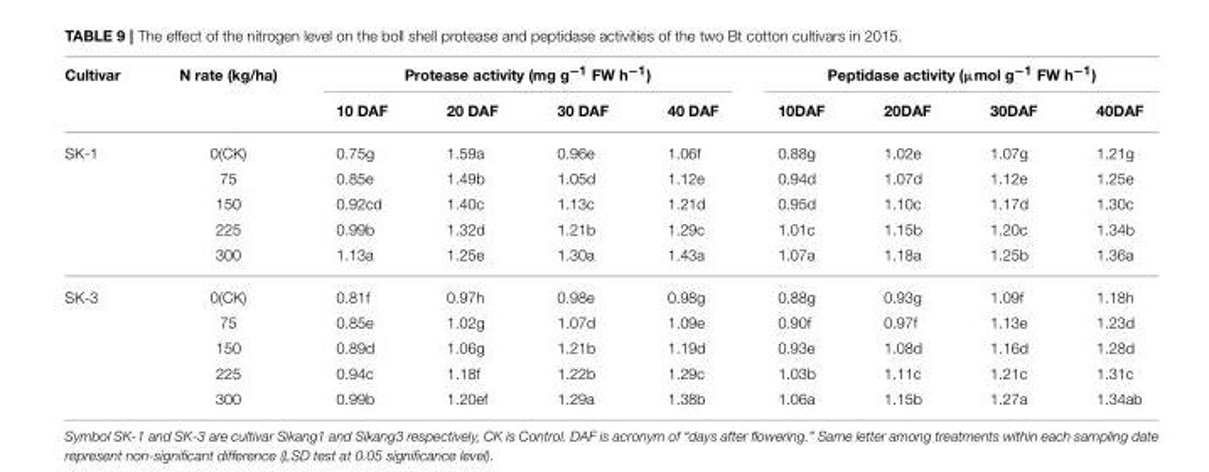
<table><thead><tr><td rowspan="2">Cultivar</td><td rowspan="2">N rate (kg/ha)</td><td colspan="4">Protease activity (mg g<sup>−1</sup> FW h<sup>−1</sup>)</td><td colspan="4">Peptidase activity (µmol g<sup>−1</sup> FW h<sup>−1</sup>)</td></tr><tr><td>10 DAF</td><td>20 DAF</td><td>30 DAF</td><td>40 DAF</td><td>10DAF</td><td>20DAF</td><td>30DAF</td><td>40DAF</td></tr></thead><tbody><tr><td rowspan="5">SK-1</td><td>0(CK)</td><td>0.75g</td><td>1.59a</td><td>0.96e</td><td>1.06f</td><td>0.88g</td><td>1.02e</td><td>1.07g</td><td>1.21g</td></tr><tr><td>75</td><td>0.85e</td><td>1.49b</td><td>1.05d</td><td>1.12e</td><td>0.94d</td><td>1.07d</td><td>1.12e</td><td>1.25e</td></tr><tr><td>150</td><td>0.92cd</td><td>1.40c</td><td>1.13c</td><td>1.21d</td><td>0.95d</td><td>1.10c</td><td>1.17d</td><td>1.30c</td></tr><tr><td>225</td><td>0.99b</td><td>1.32d</td><td>1.21b</td><td>1.29c</td><td>1.01c</td><td>1.15b</td><td>1.20c</td><td>1.34b</td></tr><tr><td>300</td><td>1.13a</td><td>1.25e</td><td>1.30a</td><td>1.43a</td><td>1.07a</td><td>1.18a</td><td>1.25b</td><td>1.36a</td></tr><tr><td rowspan="5">SK-3</td><td>0(CK)</td><td>0.81f</td><td>0.97h</td><td>0.98e</td><td>0.98g</td><td>0.88g</td><td>0.93g</td><td>1.09f</td><td>1.18h</td></tr><tr><td>75</td><td>0.85e</td><td>1.02g</td><td>1.07d</td><td>1.09e</td><td>0.90f</td><td>0.97f</td><td>1.13e</td><td>1.23d</td></tr><tr><td>150</td><td>0.89d</td><td>1.06g</td><td>1.21b</td><td>1.19d</td><td>0.93e</td><td>1.08d</td><td>1.16d</td><td>1.28d</td></tr><tr><td>225</td><td>0.94c</td><td>1.18f</td><td>1.22b</td><td>1.29c</td><td>1.03b</td><td>1.11c</td><td>1.21c</td><td>1.31c</td></tr><tr><td>300</td><td>0.99b</td><td>1.20ef</td><td>1.29a</td><td>1.38b</td><td>1.06a</td><td>1.15b</td><td>1.27a</td><td>1.34ab</td></tr></tbody></table>